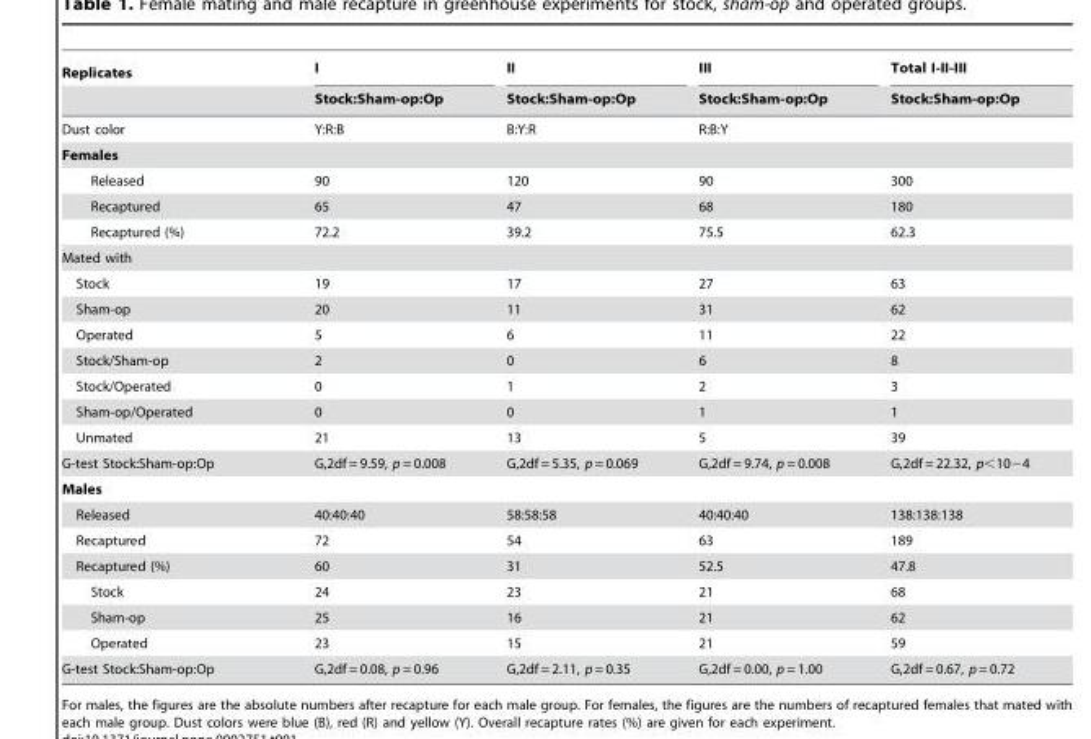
<table><thead><tr><td rowspan="2">Replicates</td><td rowspan="2">I Stock:Sham-op:Op</td><td rowspan="2">II Stock:Sham-op:Op</td><td rowspan="2">III Stock:Sham-op:Op</td><td rowspan="2">Total I-II-III Stock:Sham-op:Op</td></tr><tr></tr></thead><tbody><tr><td>Dust color</td><td>Y:R:B</td><td>B:Y:R</td><td>R:B:Y</td><td></td></tr><tr><td colspan="5">Females</td></tr><tr><td>Released</td><td>90</td><td>120</td><td>90</td><td>300</td></tr><tr><td>Recaptured</td><td>65</td><td>47</td><td>68</td><td>180</td></tr><tr><td>Recaptured (%)</td><td>72.2</td><td>39.2</td><td>75.5</td><td>62.3</td></tr><tr><td colspan="5">Mated with</td></tr><tr><td>Stock</td><td>19</td><td>17</td><td>27</td><td>63</td></tr><tr><td>Sham-op</td><td>20</td><td>11</td><td>31</td><td>62</td></tr><tr><td>Operated</td><td>5</td><td>6</td><td>11</td><td>22</td></tr><tr><td>Stock/Sham-op</td><td>2</td><td>0</td><td>6</td><td>8</td></tr><tr><td>Stock/Operated</td><td>0</td><td>1</td><td>2</td><td>3</td></tr><tr><td>Sham-op/Operated</td><td>0</td><td>0</td><td>1</td><td>1</td></tr><tr><td>Unmated</td><td>21</td><td>13</td><td>5</td><td>39</td></tr><tr><td>G-test Stock:Sham-op:Op</td><td>G,2df = 9.59, p = 0.008</td><td>G,2df = 5.35, p = 0.069</td><td>G,2df = 9.74, p = 0.008</td><td>G,2df = 22.32, p&lt;10−4</td></tr><tr><td colspan="5">Males</td></tr><tr><td>Released</td><td>40:40:40</td><td>58:58:58</td><td>40:40:40</td><td>138:138:138</td></tr><tr><td>Recaptured</td><td>72</td><td>54</td><td>63</td><td>189</td></tr><tr><td>Recaptured (%)</td><td>60</td><td>31</td><td>52.5</td><td>47.8</td></tr><tr><td>Stock</td><td>24</td><td>23</td><td>21</td><td>68</td></tr><tr><td>Sham-op</td><td>25</td><td>16</td><td>21</td><td>62</td></tr><tr><td>Operated</td><td>23</td><td>15</td><td>21</td><td>59</td></tr><tr><td>G-test Stock:Sham-op:Op</td><td>G,2df = 0.08, p = 0.96</td><td>G,2df = 2.11, p = 0.35</td><td>G,2df = 0.00, p = 1.00</td><td>G,2df = 0.67, p = 0.72</td></tr></tbody></table>